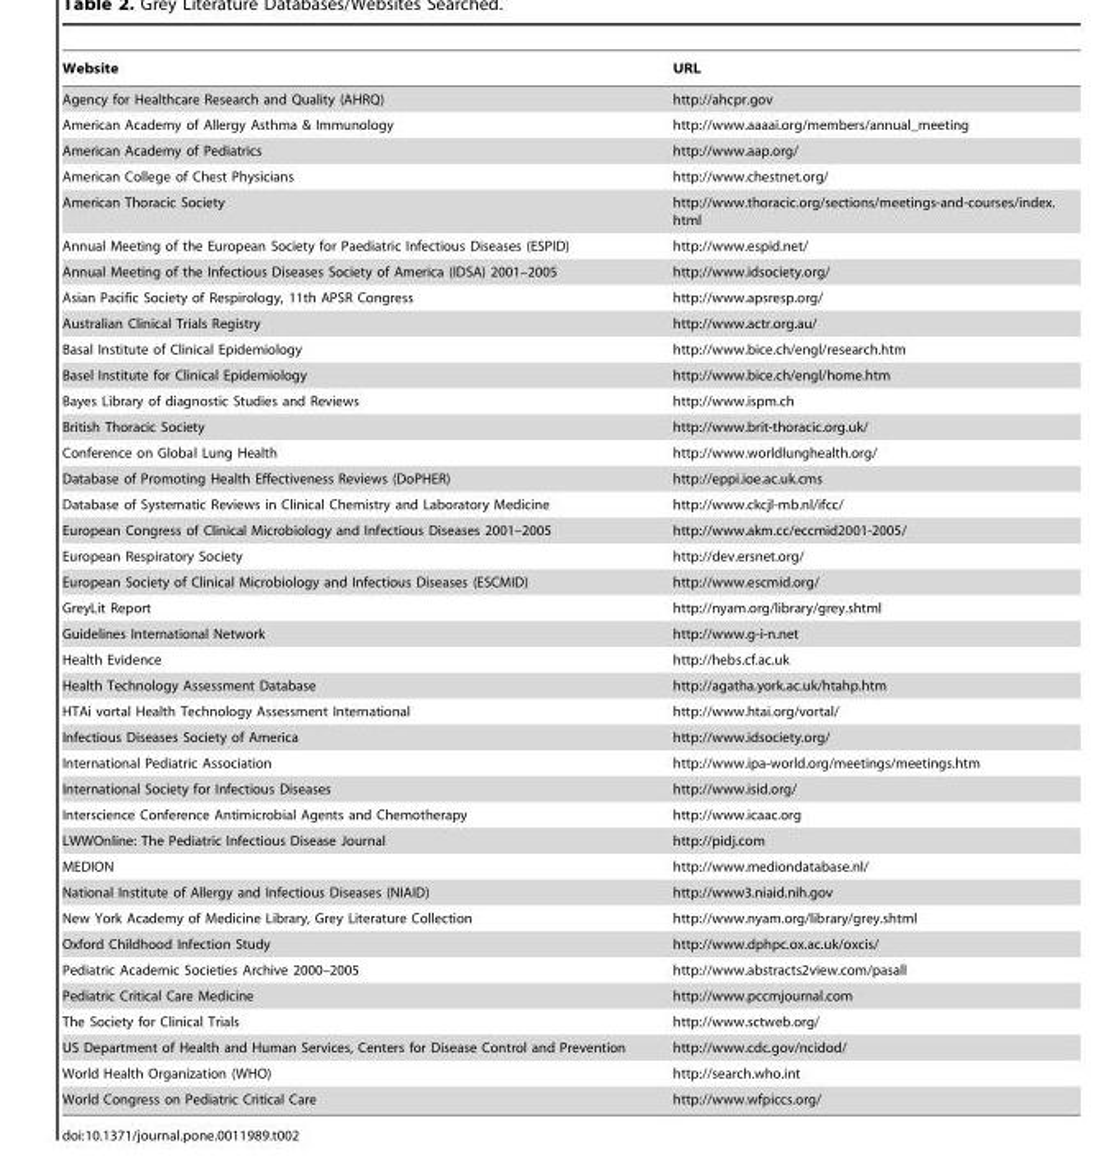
<table><thead><tr><td>Website</td><td>URL</td></tr></thead><tbody><tr><td>Agency for Healthcare Research and Quality (AHRQ)</td><td>http://ahcpr.gov</td></tr><tr><td>American Academy of Allergy Asthma &amp; Immunology</td><td>http://www.aaaai.org/members/annual_meeting</td></tr><tr><td>American Academy of Pediatrics</td><td>http://www.aap.org/</td></tr><tr><td>American College of Chest Physicians</td><td>http://www.chestnet.org/</td></tr><tr><td>American Thoracic Society</td><td>http://www.thoracic.org/sections/meetings-and-courses/index. html</td></tr><tr><td>Annual Meeting of the European Society for Paediatric Infectious Diseases (ESPID)</td><td>http://www.espid.net/</td></tr><tr><td>Annual Meeting of the Infectious Diseases Society of America (IDSA) 2001–2005</td><td>http://www.idsociety.org/</td></tr><tr><td>Asian Pacific Society of Respirology, 11th APSR Congress</td><td>http://www.apsresp.org/</td></tr><tr><td>Australian Clinical Trials Registry</td><td>http://www.actr.org.au/</td></tr><tr><td>Basal Institute of Clinical Epidemiology</td><td>http://www.bice.ch/engl/research.htm</td></tr><tr><td>Basel Institute for Clinical Epidemiology</td><td>http://www.bice.ch/engl/home.htm</td></tr><tr><td>Bayes Library of diagnostic Studies and Reviews</td><td>http://www.ispm.ch</td></tr><tr><td>British Thoracic Society</td><td>http://www.brit-thoracic.org.uk/</td></tr><tr><td>Conference on Global Lung Health</td><td>http://www.worldlunghealth.org/</td></tr><tr><td>Database of Promoting Health Effectiveness Reviews (DoPHER)</td><td>http://eppi.ioe.ac.uk.cms</td></tr><tr><td>Database of Systematic Reviews in Clinical Chemistry and Laboratory Medicine</td><td>http://www.ckcjl-mb.nl/ifcc/</td></tr><tr><td>European Congress of Clinical Microbiology and Infectious Diseases 2001–2005</td><td>http://www.akm.cc/eccmid2001-2005/</td></tr><tr><td>European Respiratory Society</td><td>http://dev.ersnet.org/</td></tr><tr><td>European Society of Clinical Microbiology and Infectious Diseases (ESCMID)</td><td>http://www.escmid.org/</td></tr><tr><td>GreyLit Report</td><td>http://nyam.org/library/grey.shtml</td></tr><tr><td>Guidelines International Network</td><td>http://www.g-i-n.net</td></tr><tr><td>Health Evidence</td><td>http://hebs.cf.ac.uk</td></tr><tr><td>Health Technology Assessment Database</td><td>http://agatha.york.ac.uk/htahp.htm</td></tr><tr><td>HTAi vortal Health Technology Assessment International</td><td>http://www.htai.org/vortal/</td></tr><tr><td>Infectious Diseases Society of America</td><td>http://www.idsociety.org/</td></tr><tr><td>International Pediatric Association</td><td>http://www.ipa-world.org/meetings/meetings.htm</td></tr><tr><td>International Society for Infectious Diseases</td><td>http://www.isid.org/</td></tr><tr><td>Interscience Conference Antimicrobial Agents and Chemotherapy</td><td>http://www.icaac.org</td></tr><tr><td>LWWOnline: The Pediatric Infectious Disease Journal</td><td>http://pidj.com</td></tr><tr><td>MEDION</td><td>http://www.mediondatabase.nl/</td></tr><tr><td>National Institute of Allergy and Infectious Diseases (NIAID)</td><td>http://www3.niaid.nih.gov</td></tr><tr><td>New York Academy of Medicine Library, Grey Literature Collection</td><td>http://www.nyam.org/library/grey.shtml</td></tr><tr><td>Oxford Childhood Infection Study</td><td>http://www.dphpc.ox.ac.uk/oxcis/</td></tr><tr><td>Pediatric Academic Societies Archive 2000–2005</td><td>http://www.abstracts2view.com/pasall</td></tr><tr><td>Pediatric Critical Care Medicine</td><td>http://www.pccmjournal.com</td></tr><tr><td>The Society for Clinical Trials</td><td>http://www.sctweb.org/</td></tr><tr><td>US Department of Health and Human Services, Centers for Disease Control and Prevention</td><td>http://www.cdc.gov/ncidod/</td></tr><tr><td>World Health Organization (WHO)</td><td>http://search.who.int</td></tr><tr><td>World Congress on Pediatric Critical Care</td><td>http://www.wfpiccs.org/</td></tr></tbody></table>